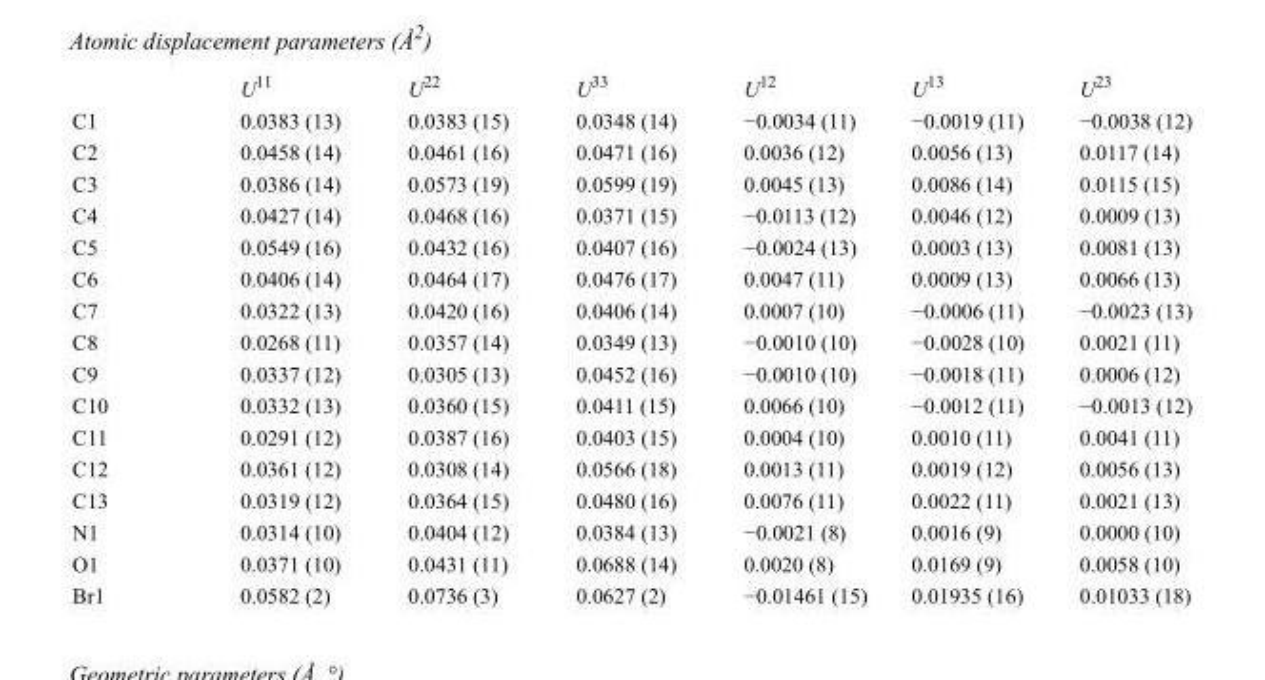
<table><thead><tr><td></td><td>U<sup>11</sup></td><td>U<sup>22</sup></td><td>U<sup>33</sup></td><td>U<sup>12</sup></td><td>U<sup>13</sup></td><td>U<sup>23</sup></td></tr></thead><tbody><tr><td>C1</td><td>0.0383 (13)</td><td>0.0383 (15)</td><td>0.0348 (14)</td><td>−0.0034 (11)</td><td>−0.0019 (11)</td><td>−0.0038 (12)</td></tr><tr><td>C2</td><td>0.0458 (14)</td><td>0.0461 (16)</td><td>0.0471 (16)</td><td>0.0036 (12)</td><td>0.0056 (13)</td><td>0.0117 (14)</td></tr><tr><td>C3</td><td>0.0386 (14)</td><td>0.0573 (19)</td><td>0.0599 (19)</td><td>0.0045 (13)</td><td>0.0086 (14)</td><td>0.0115 (15)</td></tr><tr><td>C4</td><td>0.0427 (14)</td><td>0.0468 (16)</td><td>0.0371 (15)</td><td>−0.0113 (12)</td><td>0.0046 (12)</td><td>0.0009 (13)</td></tr><tr><td>C5</td><td>0.0549 (16)</td><td>0.0432 (16)</td><td>0.0407 (16)</td><td>−0.0024 (13)</td><td>0.0003 (13)</td><td>0.0081 (13)</td></tr><tr><td>C6</td><td>0.0406 (14)</td><td>0.0464 (17)</td><td>0.0476 (17)</td><td>0.0047 (11)</td><td>0.0009 (13)</td><td>0.0066 (13)</td></tr><tr><td>C7</td><td>0.0322 (13)</td><td>0.0420 (16)</td><td>0.0406 (14)</td><td>0.0007 (10)</td><td>−0.0006 (11)</td><td>−0.0023 (13)</td></tr><tr><td>C8</td><td>0.0268 (11)</td><td>0.0357 (14)</td><td>0.0349 (13)</td><td>−0.0010 (10)</td><td>−0.0028 (10)</td><td>0.0021 (11)</td></tr><tr><td>C9</td><td>0.0337 (12)</td><td>0.0305 (13)</td><td>0.0452 (16)</td><td>−0.0010 (10)</td><td>−0.0018 (11)</td><td>0.0006 (12)</td></tr><tr><td>C10</td><td>0.0332 (13)</td><td>0.0360 (15)</td><td>0.0411 (15)</td><td>0.0066 (10)</td><td>−0.0012 (11)</td><td>−0.0013 (12)</td></tr><tr><td>C11</td><td>0.0291 (12)</td><td>0.0387 (16)</td><td>0.0403 (15)</td><td>0.0004 (10)</td><td>0.0010 (11)</td><td>0.0041 (11)</td></tr><tr><td>C12</td><td>0.0361 (12)</td><td>0.0308 (14)</td><td>0.0566 (18)</td><td>0.0013 (11)</td><td>0.0019 (12)</td><td>0.0056 (13)</td></tr><tr><td>C13</td><td>0.0319 (12)</td><td>0.0364 (15)</td><td>0.0480 (16)</td><td>0.0076 (11)</td><td>0.0022 (11)</td><td>0.0021 (13)</td></tr><tr><td>N1</td><td>0.0314 (10)</td><td>0.0404 (12)</td><td>0.0384 (13)</td><td>−0.0021 (8)</td><td>0.0016 (9)</td><td>0.0000 (10)</td></tr><tr><td>O1</td><td>0.0371 (10)</td><td>0.0431 (11)</td><td>0.0688 (14)</td><td>0.0020 (8)</td><td>0.0169 (9)</td><td>0.0058 (10)</td></tr><tr><td>Br1</td><td>0.0582 (2)</td><td>0.0736 (3)</td><td>0.0627 (2)</td><td>−0.01461 (15)</td><td>0.01935 (16)</td><td>0.01033 (18)</td></tr></tbody></table>